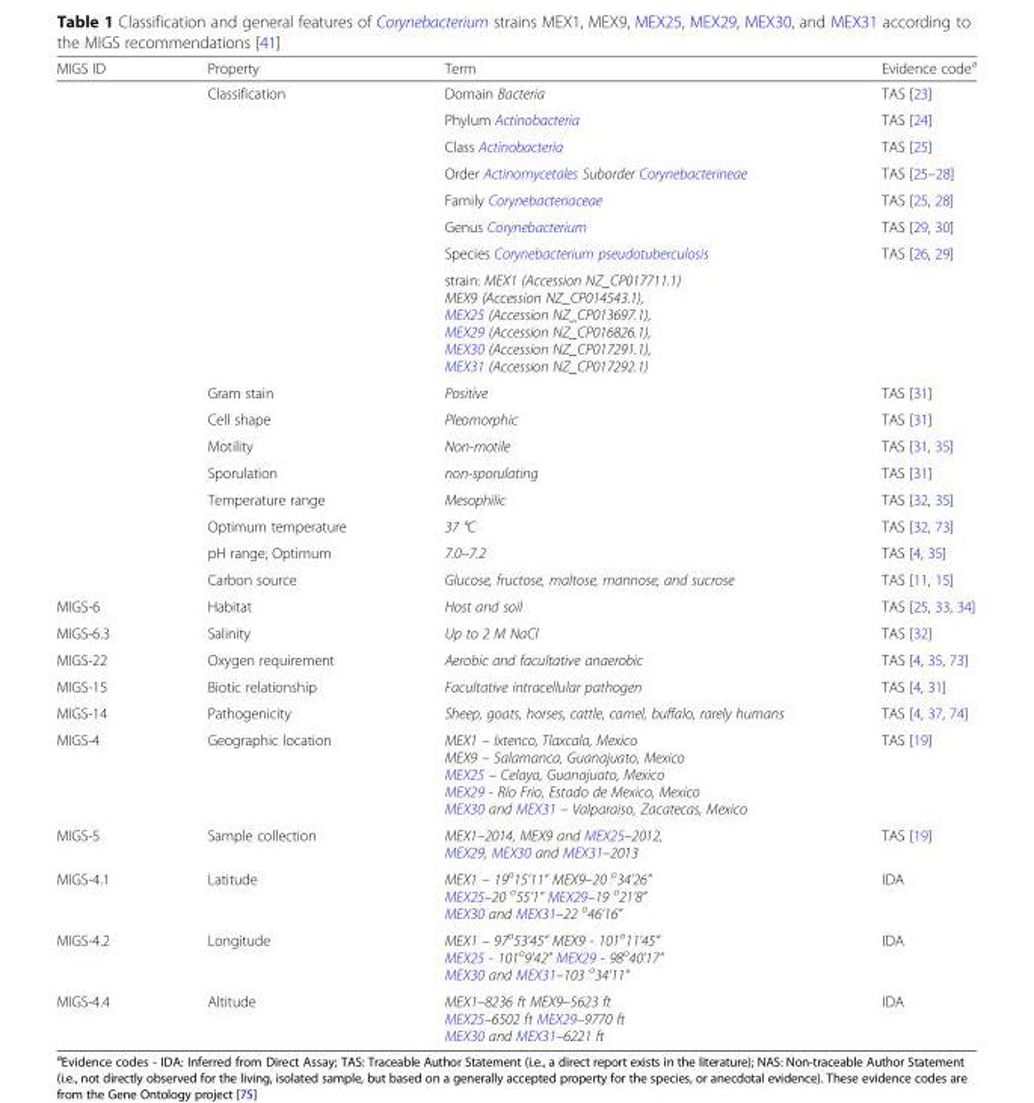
<table><thead><tr><td>MIGS ID</td><td>Property</td><td>Term</td><td>Evidence code<sup>a</sup></td></tr></thead><tbody><tr><td rowspan="16"></td><td rowspan="8">Classification</td><td>Domain Bacteria</td><td>TAS [23]</td></tr><tr><td>Phylum Actinobacteria</td><td>TAS [24]</td></tr><tr><td>Class Actinobacteria</td><td>TAS [25]</td></tr><tr><td>Order Actinomycetales Suborder Corynebacterineae</td><td>TAS [25–28]</td></tr><tr><td>Family Corynebacteriaceae</td><td>TAS [25, 28]</td></tr><tr><td>Genus Corynebacterium</td><td>TAS [29, 30]</td></tr><tr><td>Species Corynebacterium pseudotuberculosis</td><td>TAS [26, 29]</td></tr><tr><td>strain: MEX1 (Accession NZ_CP017711.1) MEX9 (Accession NZ_CP014543.1), MEX25 (Accession NZ_CP013697.1), MEX29 (Accession NZ_CP016826.1), MEX30 (Accession NZ_CP017291.1), MEX31 (Accession NZ_CP017292.1)</td><td></td></tr><tr><td>Gram stain</td><td>Positive</td><td>TAS [31]</td></tr><tr><td>Cell shape</td><td>Pleomorphic</td><td>TAS [31]</td></tr><tr><td>Motility</td><td>Non-motile</td><td>TAS [31, 35]</td></tr><tr><td>Sporulation</td><td>non-sporulating</td><td>TAS [31]</td></tr><tr><td>Temperature range</td><td>Mesophilic</td><td>TAS [32, 35]</td></tr><tr><td>Optimum temperature</td><td>37 °C</td><td>TAS [32, 73]</td></tr><tr><td>pH range; Optimum</td><td>7.0–7.2</td><td>TAS [4, 35]</td></tr><tr><td>Carbon source</td><td>Glucose, fructose, maltose, mannose, and sucrose</td><td>TAS [11, 15]</td></tr><tr><td>MIGS-6</td><td>Habitat</td><td>Host and soil</td><td>TAS [25, 33, 34]</td></tr><tr><td>MIGS-6.3</td><td>Salinity</td><td>Up to 2 M NaCl</td><td>TAS [32]</td></tr><tr><td>MIGS-22</td><td>Oxygen requirement</td><td>Aerobic and facultative anaerobic</td><td>TAS [4, 35, 73]</td></tr><tr><td>MIGS-15</td><td>Biotic relationship</td><td>Facultative intracellular pathogen</td><td>TAS [4, 31]</td></tr><tr><td>MIGS-14</td><td>Pathogenicity</td><td>Sheep, goats, horses, cattle, camel, buffalo, rarely humans</td><td>TAS [4, 37, 74]</td></tr><tr><td>MIGS-4</td><td>Geographic location</td><td>MEX1 – Ixtenco, Tlaxcala, Mexico MEX9 – Salamanca, Guanajuato, Mexico MEX25 – Celaya, Guanajuato, Mexico MEX29 - Río Frio, Estado de Mexico, Mexico MEX30 and MEX31 – Valparaiso, Zacatecas, Mexico</td><td>TAS [19]</td></tr><tr><td>MIGS-5</td><td>Sample collection</td><td>MEX1–2014, MEX9 and MEX25–2012, MEX29, MEX30 and MEX31–2013</td><td>TAS [19]</td></tr><tr><td>MIGS-4.1</td><td>Latitude</td><td>MEX1 – 19<sup>o</sup>15’11” MEX9–20 <sup>o</sup>34’26” MEX25–20 <sup>o</sup>55’1” MEX29–19 <sup>o</sup>21’8” MEX30 and MEX31–22 <sup>o</sup>46’16”</td><td>IDA</td></tr><tr><td>MIGS-4.2</td><td>Longitude</td><td>MEX1 – 97<sup>o</sup>53’45” MEX9 - 101<sup>o</sup>11’45” MEX25 - 101<sup>o</sup>9’42” MEX29 - 98<sup>o</sup>40’17” MEX30 and MEX31–103 <sup>o</sup>34’11”</td><td>IDA</td></tr><tr><td>MIGS-4.4</td><td>Altitude</td><td>MEX1–8236 ft MEX9–5623 ft MEX25–6502 ft MEX29–9770 ft MEX30 and MEX31–6221 ft</td><td>IDA</td></tr></tbody></table>